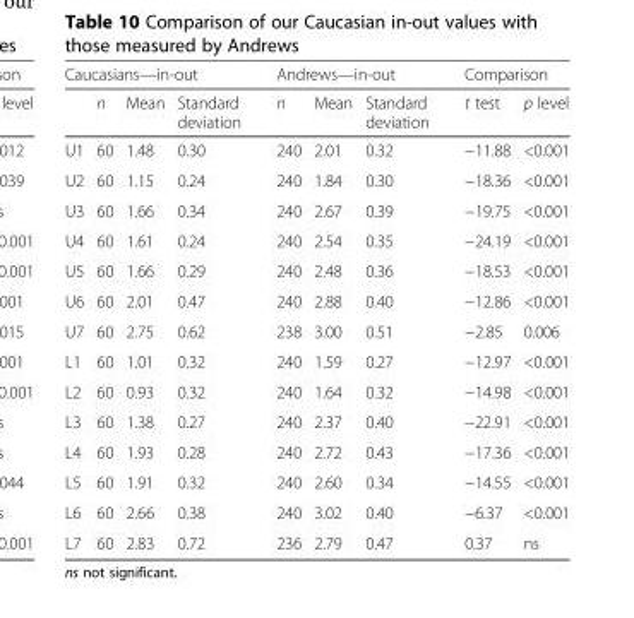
<table><thead><tr><td colspan="4">Caucasians—in-out</td><td colspan="3">Andrews—in-out</td><td colspan="2">Comparison</td></tr><tr><td></td><td>n</td><td>Mean</td><td>Standard deviation</td><td>n</td><td>Mean</td><td>Standard deviation</td><td>t test</td><td>p level</td></tr></thead><tbody><tr><td>U1</td><td>60</td><td>1.48</td><td>0.30</td><td>240</td><td>2.01</td><td>0.32</td><td>−11.88</td><td>&lt;0.001</td></tr><tr><td>U2</td><td>60</td><td>1.15</td><td>0.24</td><td>240</td><td>1.84</td><td>0.30</td><td>−18.36</td><td>&lt;0.001</td></tr><tr><td>U3</td><td>60</td><td>1.66</td><td>0.34</td><td>240</td><td>2.67</td><td>0.39</td><td>−19.75</td><td>&lt;0.001</td></tr><tr><td>U4</td><td>60</td><td>1.61</td><td>0.24</td><td>240</td><td>2.54</td><td>0.35</td><td>−24.19</td><td>&lt;0.001</td></tr><tr><td>U5</td><td>60</td><td>1.66</td><td>0.29</td><td>240</td><td>2.48</td><td>0.36</td><td>−18.53</td><td>&lt;0.001</td></tr><tr><td>U6</td><td>60</td><td>2.01</td><td>0.47</td><td>240</td><td>2.88</td><td>0.40</td><td>−12.86</td><td>&lt;0.001</td></tr><tr><td>U7</td><td>60</td><td>2.75</td><td>0.62</td><td>238</td><td>3.00</td><td>0.51</td><td>−2.85</td><td>0.006</td></tr><tr><td>L1</td><td>60</td><td>1.01</td><td>0.32</td><td>240</td><td>1.59</td><td>0.27</td><td>−12.97</td><td>&lt;0.001</td></tr><tr><td>L2</td><td>60</td><td>0.93</td><td>0.32</td><td>240</td><td>1.64</td><td>0.32</td><td>−14.98</td><td>&lt;0.001</td></tr><tr><td>L3</td><td>60</td><td>1.38</td><td>0.27</td><td>240</td><td>2.37</td><td>0.40</td><td>−22.91</td><td>&lt;0.001</td></tr><tr><td>L4</td><td>60</td><td>1.93</td><td>0.28</td><td>240</td><td>2.72</td><td>0.43</td><td>−17.36</td><td>&lt;0.001</td></tr><tr><td>L5</td><td>60</td><td>1.91</td><td>0.32</td><td>240</td><td>2.60</td><td>0.34</td><td>−14.55</td><td>&lt;0.001</td></tr><tr><td>L6</td><td>60</td><td>2.66</td><td>0.38</td><td>240</td><td>3.02</td><td>0.40</td><td>−6.37</td><td>&lt;0.001</td></tr><tr><td>L7</td><td>60</td><td>2.83</td><td>0.72</td><td>236</td><td>2.79</td><td>0.47</td><td>0.37</td><td>ns</td></tr></tbody></table>